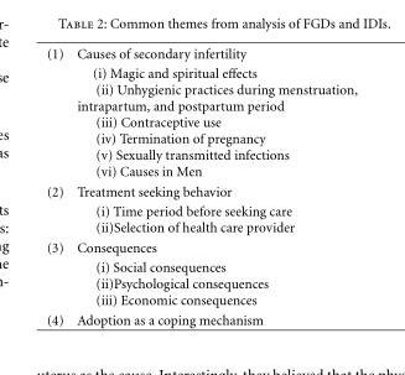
<table><tbody><tr><td rowspan="2">(1)</td><td>Causes of secondary infertility</td></tr><tr><td>(i) Magic and spiritual effects (ii) Unhygienic practices during menstruation, intrapartum, and postpartum period (iii) Contraceptive use (iv) Termination of pregnancy (v) Sexually transmitted infections (vi) Causes in Men</td></tr><tr><td rowspan="2">(2)</td><td>Treatment seeking behavior</td></tr><tr><td>(i) Time period before seeking care (ii)Selection of health care provider</td></tr><tr><td rowspan="2">(3)</td><td>Consequences</td></tr><tr><td>(i) Social consequences (ii)Psychological consequences (iii) Economic consequences</td></tr><tr><td>(4)</td><td>Adoption as a coping mechanism</td></tr></tbody></table>